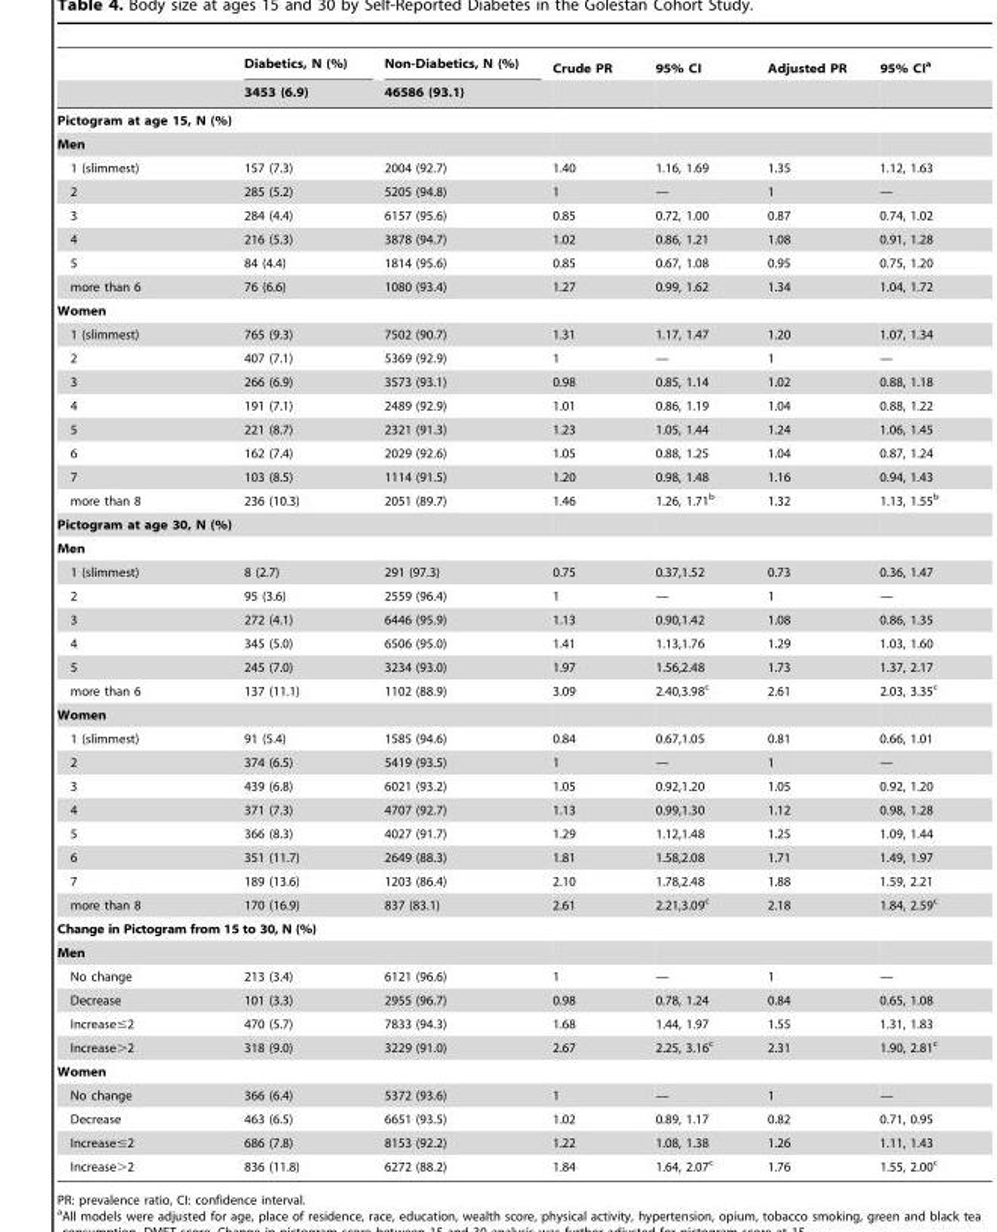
<table><thead><tr><td rowspan="2"></td><td rowspan="2">Diabetics, N (%) 3453 (6.9)</td><td rowspan="2">Non-Diabetics, N (%) 46586 (93.1)</td><td rowspan="2">Crude PR</td><td rowspan="2">95% CI</td><td rowspan="2">Adjusted PR</td><td rowspan="2">95% CI<sup>a</sup></td></tr><tr></tr></thead><tbody><tr><td colspan="7">Pictogram at age 15, N (%)</td></tr><tr><td colspan="7">Men</td></tr><tr><td>1 (slimmest)</td><td>157 (7.3)</td><td>2004 (92.7)</td><td>1.40</td><td>1.16, 1.69</td><td>1.35</td><td>1.12, 1.63</td></tr><tr><td>2</td><td>285 (5.2)</td><td>5205 (94.8)</td><td>1</td><td>—</td><td>1</td><td>—</td></tr><tr><td>3</td><td>284 (4.4)</td><td>6157 (95.6)</td><td>0.85</td><td>0.72, 1.00</td><td>0.87</td><td>0.74, 1.02</td></tr><tr><td>4</td><td>216 (5.3)</td><td>3878 (94.7)</td><td>1.02</td><td>0.86, 1.21</td><td>1.08</td><td>0.91, 1.28</td></tr><tr><td>5</td><td>84 (4.4)</td><td>1814 (95.6)</td><td>0.85</td><td>0.67, 1.08</td><td>0.95</td><td>0.75, 1.20</td></tr><tr><td>more than 6</td><td>76 (6.6)</td><td>1080 (93.4)</td><td>1.27</td><td>0.99, 1.62</td><td>1.34</td><td>1.04, 1.72</td></tr><tr><td colspan="7">Women</td></tr><tr><td>1 (slimmest)</td><td>765 (9.3)</td><td>7502 (90.7)</td><td>1.31</td><td>1.17, 1.47</td><td>1.20</td><td>1.07, 1.34</td></tr><tr><td>2</td><td>407 (7.1)</td><td>5369 (92.9)</td><td>1</td><td>—</td><td>1</td><td>—</td></tr><tr><td>3</td><td>266 (6.9)</td><td>3573 (93.1)</td><td>0.98</td><td>0.85, 1.14</td><td>1.02</td><td>0.88, 1.18</td></tr><tr><td>4</td><td>191 (7.1)</td><td>2489 (92.9)</td><td>1.01</td><td>0.86, 1.19</td><td>1.04</td><td>0.88, 1.22</td></tr><tr><td>5</td><td>221 (8.7)</td><td>2321 (91.3)</td><td>1.23</td><td>1.05, 1.44</td><td>1.24</td><td>1.06, 1.45</td></tr><tr><td>6</td><td>162 (7.4)</td><td>2029 (92.6)</td><td>1.05</td><td>0.88, 1.25</td><td>1.04</td><td>0.87, 1.24</td></tr><tr><td>7</td><td>103 (8.5)</td><td>1114 (91.5)</td><td>1.20</td><td>0.98, 1.48</td><td>1.16</td><td>0.94, 1.43</td></tr><tr><td>more than 8</td><td>236 (10.3)</td><td>2051 (89.7)</td><td>1.46</td><td>1.26, 1.71<sup>b</sup></td><td>1.32</td><td>1.13, 1.55<sup>b</sup></td></tr><tr><td colspan="7">Pictogram at age 30, N (%)</td></tr><tr><td colspan="7">Men</td></tr><tr><td>1 (slimmest)</td><td>8 (2.7)</td><td>291 (97.3)</td><td>0.75</td><td>0.37,1.52</td><td>0.73</td><td>0.36, 1.47</td></tr><tr><td>2</td><td>95 (3.6)</td><td>2559 (96.4)</td><td>1</td><td>—</td><td>1</td><td>—</td></tr><tr><td>3</td><td>272 (4.1)</td><td>6446 (95.9)</td><td>1.13</td><td>0.90,1.42</td><td>1.08</td><td>0.86, 1.35</td></tr><tr><td>4</td><td>345 (5.0)</td><td>6506 (95.0)</td><td>1.41</td><td>1.13,1.76</td><td>1.29</td><td>1.03, 1.60</td></tr><tr><td>5</td><td>245 (7.0)</td><td>3234 (93.0)</td><td>1.97</td><td>1.56,2.48</td><td>1.73</td><td>1.37, 2.17</td></tr><tr><td>more than 6</td><td>137 (11.1)</td><td>1102 (88.9)</td><td>3.09</td><td>2.40,3.98<sup>c</sup></td><td>2.61</td><td>2.03, 3.35<sup>c</sup></td></tr><tr><td colspan="7">Women</td></tr><tr><td>1 (slimmest)</td><td>91 (5.4)</td><td>1585 (94.6)</td><td>0.84</td><td>0.67,1.05</td><td>0.81</td><td>0.66, 1.01</td></tr><tr><td>2</td><td>374 (6.5)</td><td>5419 (93.5)</td><td>1</td><td>—</td><td>1</td><td>—</td></tr><tr><td>3</td><td>439 (6.8)</td><td>6021 (93.2)</td><td>1.05</td><td>0.92,1.20</td><td>1.05</td><td>0.92, 1.20</td></tr><tr><td>4</td><td>371 (7.3)</td><td>4707 (92.7)</td><td>1.13</td><td>0.99,1.30</td><td>1.12</td><td>0.98, 1.28</td></tr><tr><td>5</td><td>366 (8.3)</td><td>4027 (91.7)</td><td>1.29</td><td>1.12,1.48</td><td>1.25</td><td>1.09, 1.44</td></tr><tr><td>6</td><td>351 (11.7)</td><td>2649 (88.3)</td><td>1.81</td><td>1.58,2.08</td><td>1.71</td><td>1.49, 1.97</td></tr><tr><td>7</td><td>189 (13.6)</td><td>1203 (86.4)</td><td>2.10</td><td>1.78,2.48</td><td>1.88</td><td>1.59, 2.21</td></tr><tr><td>more than 8</td><td>170 (16.9)</td><td>837 (83.1)</td><td>2.61</td><td>2.21,3.09<sup>c</sup></td><td>2.18</td><td>1.84, 2.59<sup>c</sup></td></tr><tr><td colspan="7">Change in Pictogram from 15 to 30, N (%)</td></tr><tr><td colspan="7">Men</td></tr><tr><td>No change</td><td>213 (3.4)</td><td>6121 (96.6)</td><td>1</td><td>—</td><td>1</td><td>—</td></tr><tr><td>Decrease</td><td>101 (3.3)</td><td>2955 (96.7)</td><td>0.98</td><td>0.78, 1.24</td><td>0.84</td><td>0.65, 1.08</td></tr><tr><td>Increase≤2</td><td>470 (5.7)</td><td>7833 (94.3)</td><td>1.68</td><td>1.44, 1.97</td><td>1.55</td><td>1.31, 1.83</td></tr><tr><td>Increase&gt;2</td><td>318 (9.0)</td><td>3229 (91.0)</td><td>2.67</td><td>2.25, 3.16<sup>c</sup></td><td>2.31</td><td>1.90, 2.81<sup>c</sup></td></tr><tr><td colspan="7">Women</td></tr><tr><td>No change</td><td>366 (6.4)</td><td>5372 (93.6)</td><td>1</td><td>—</td><td>1</td><td>—</td></tr><tr><td>Decrease</td><td>463 (6.5)</td><td>6651 (93.5)</td><td>1.02</td><td>0.89, 1.17</td><td>0.82</td><td>0.71, 0.95</td></tr><tr><td>Increase≤2</td><td>686 (7.8)</td><td>8153 (92.2)</td><td>1.22</td><td>1.08, 1.38</td><td>1.26</td><td>1.11, 1.43</td></tr><tr><td>Increase&gt;2</td><td>836 (11.8)</td><td>6272 (88.2)</td><td>1.84</td><td>1.64, 2.07<sup>c</sup></td><td>1.76</td><td>1.55, 2.00<sup>c</sup></td></tr></tbody></table>